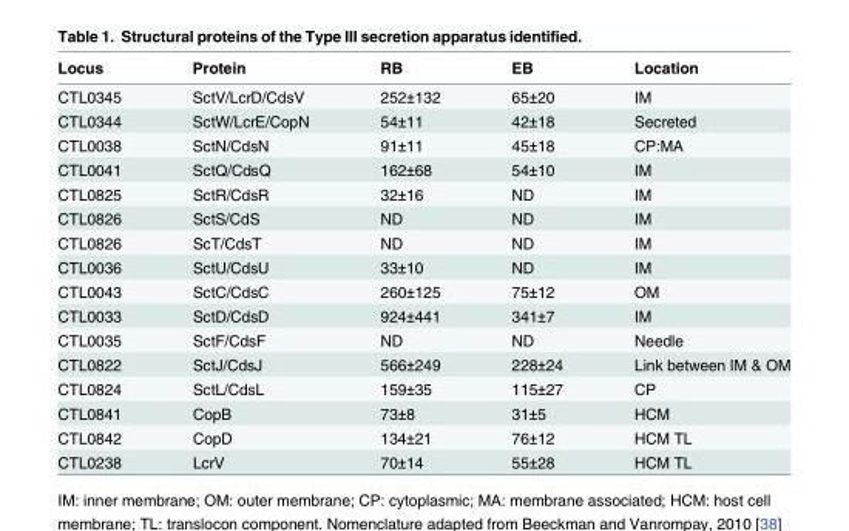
<table><thead><tr><td>Locus</td><td>Protein</td><td>RB</td><td>EB</td><td>Location</td></tr></thead><tbody><tr><td>CTL0345</td><td>SctV/LcrD/CdsV</td><td>252±132</td><td>65±20</td><td>IM</td></tr><tr><td>CTL0344</td><td>SctW/LcrE/CopN</td><td>54±11</td><td>42±18</td><td>Secreted</td></tr><tr><td>CTL0038</td><td>SctN/CdsN</td><td>91±11</td><td>45±18</td><td>CP:MA</td></tr><tr><td>CTL0041</td><td>SctQ/CdsQ</td><td>162±68</td><td>54±10</td><td>IM</td></tr><tr><td>CTL0825</td><td>SctR/CdsR</td><td>32±16</td><td>ND</td><td>IM</td></tr><tr><td>CTL0826</td><td>SctS/CdS</td><td>ND</td><td>ND</td><td>IM</td></tr><tr><td>CTL0826</td><td>ScT/CdsT</td><td>ND</td><td>ND</td><td>IM</td></tr><tr><td>CTL0036</td><td>SctU/CdsU</td><td>33±10</td><td>ND</td><td>IM</td></tr><tr><td>CTL0043</td><td>SctC/CdsC</td><td>260±125</td><td>75±12</td><td>OM</td></tr><tr><td>CTL0033</td><td>SctD/CdsD</td><td>924±441</td><td>341±7</td><td>IM</td></tr><tr><td>CTL0035</td><td>SctF/CdsF</td><td>ND</td><td>ND</td><td>Needle</td></tr><tr><td>CTL0822</td><td>SctJ/CdsJ</td><td>566±249</td><td>228±24</td><td>Link between IM &amp; OM</td></tr><tr><td>CTL0824</td><td>SctL/CdsL</td><td>159±35</td><td>115±27</td><td>CP</td></tr><tr><td>CTL0841</td><td>CopB</td><td>73±8</td><td>31±5</td><td>HCM</td></tr><tr><td>CTL0842</td><td>CopD</td><td>134±21</td><td>76±12</td><td>HCM TL</td></tr><tr><td>CTL0238</td><td>LcrV</td><td>70±14</td><td>55±28</td><td>HCM TL</td></tr></tbody></table>